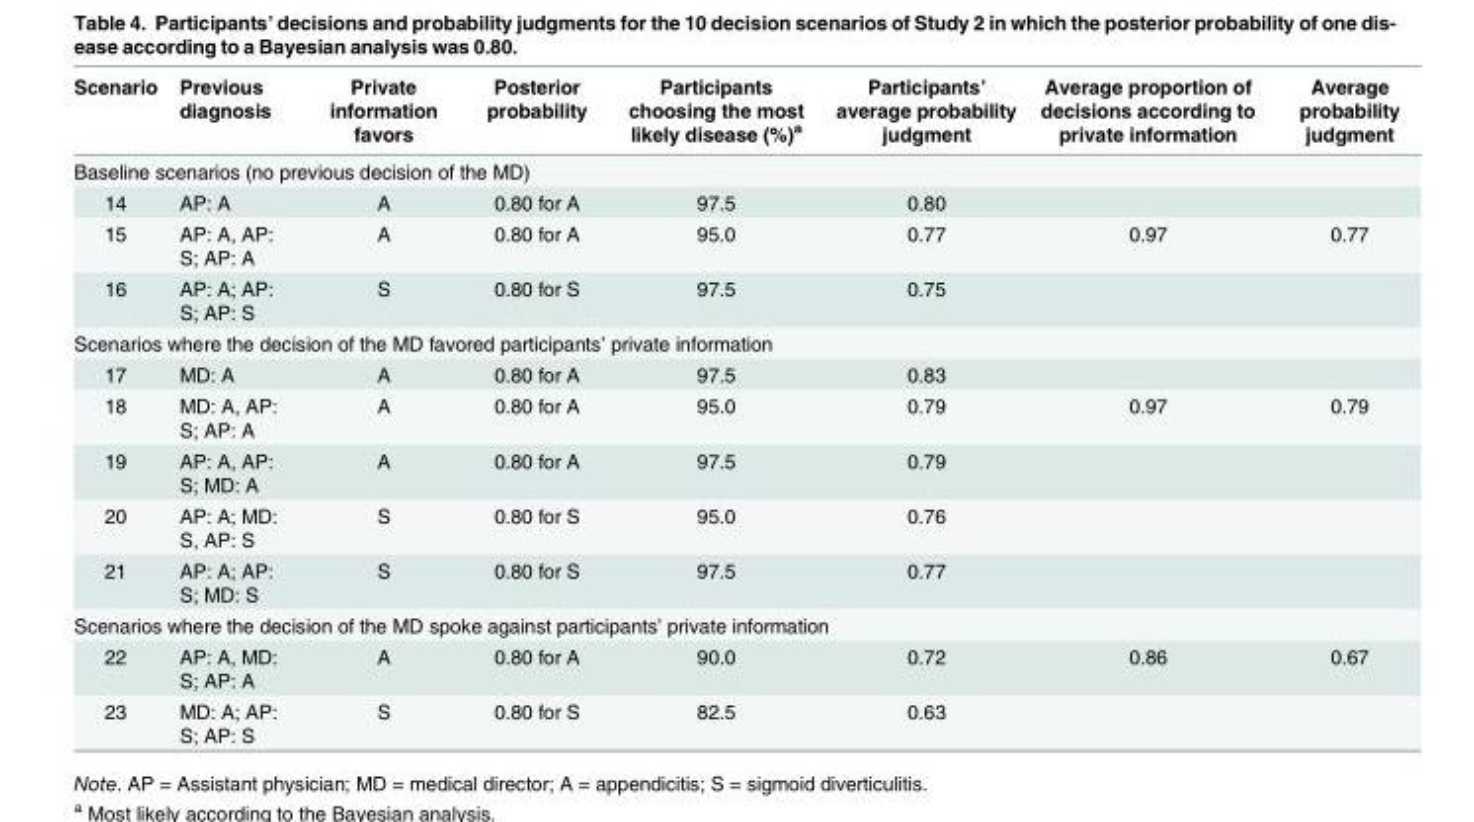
<table><thead><tr><td>Scenario</td><td>Previous diagnosis</td><td>Private information favors</td><td>Posterior probability</td><td>Participants choosing the most likely disease (%)<sup>a</sup></td><td>Participants’ average probability judgment</td><td>Average proportion of decisions according to private information</td><td>Average probability judgment</td></tr></thead><tbody><tr><td colspan="8">Baseline scenarios (no previous decision of the MD)</td></tr><tr><td>14</td><td>AP: A</td><td>A</td><td>0.80 for A</td><td>97.5</td><td>0.80</td><td></td><td></td></tr><tr><td>15</td><td>AP: A, AP: S; AP: A</td><td>A</td><td>0.80 for A</td><td>95.0</td><td>0.77</td><td>0.97</td><td>0.77</td></tr><tr><td>16</td><td>AP: A; AP: S; AP: S</td><td>S</td><td>0.80 for S</td><td>97.5</td><td>0.75</td><td></td><td></td></tr><tr><td colspan="8">Scenarios where the decision of the MD favored participants’ private information</td></tr><tr><td>17</td><td>MD: A</td><td>A</td><td>0.80 for A</td><td>97.5</td><td>0.83</td><td></td><td></td></tr><tr><td>18</td><td>MD: A, AP: S; AP: A</td><td>A</td><td>0.80 for A</td><td>95.0</td><td>0.79</td><td>0.97</td><td>0.79</td></tr><tr><td>19</td><td>AP: A, AP: S; MD: A</td><td>A</td><td>0.80 for A</td><td>97.5</td><td>0.79</td><td></td><td></td></tr><tr><td>20</td><td>AP: A; MD: S, AP: S</td><td>S</td><td>0.80 for S</td><td>95.0</td><td>0.76</td><td></td><td></td></tr><tr><td>21</td><td>AP: A; AP: S; MD: S</td><td>S</td><td>0.80 for S</td><td>97.5</td><td>0.77</td><td></td><td></td></tr><tr><td colspan="8">Scenarios where the decision of the MD spoke against participants’ private information</td></tr><tr><td>22</td><td>AP: A, MD: S; AP: A</td><td>A</td><td>0.80 for A</td><td>90.0</td><td>0.72</td><td>0.86</td><td>0.67</td></tr><tr><td>23</td><td>MD: A; AP: S; AP: S</td><td>S</td><td>0.80 for S</td><td>82.5</td><td>0.63</td><td></td><td></td></tr></tbody></table>